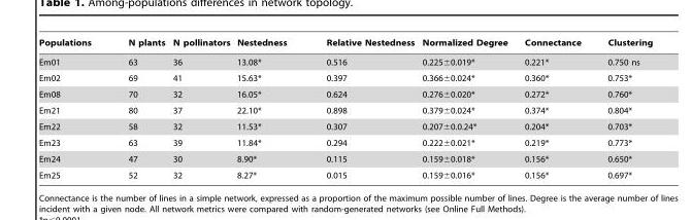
<table><thead><tr><td>Populations</td><td>N plants</td><td>N pollinators</td><td>Nestedness</td><td>Relative Nestedness</td><td>Normalized Degree</td><td>Connectance</td><td>Clustering</td></tr></thead><tbody><tr><td>Em01</td><td>63</td><td>36</td><td>13.08*</td><td>0.516</td><td>0.225±0.019*</td><td>0.221*</td><td>0.750 ns</td></tr><tr><td>Em02</td><td>69</td><td>41</td><td>15.63*</td><td>0.397</td><td>0.366±0.024*</td><td>0.360*</td><td>0.753*</td></tr><tr><td>Em08</td><td>70</td><td>32</td><td>16.05*</td><td>0.624</td><td>0.276±0.020*</td><td>0.272*</td><td>0.760*</td></tr><tr><td>Em21</td><td>80</td><td>37</td><td>22.10*</td><td>0.898</td><td>0.379±0.024*</td><td>0.374*</td><td>0.804*</td></tr><tr><td>Em22</td><td>58</td><td>32</td><td>11.53*</td><td>0.307</td><td>0.207±0.0.24*</td><td>0.204*</td><td>0.703*</td></tr><tr><td>Em23</td><td>63</td><td>39</td><td>11.84*</td><td>0.294</td><td>0.222±0.021*</td><td>0.219*</td><td>0.773*</td></tr><tr><td>Em24</td><td>47</td><td>30</td><td>8.90*</td><td>0.115</td><td>0.159±0.018*</td><td>0.156*</td><td>0.650*</td></tr><tr><td>Em25</td><td>52</td><td>32</td><td>8.27*</td><td>0.015</td><td>0.159±0.016*</td><td>0.156*</td><td>0.697*</td></tr></tbody></table>